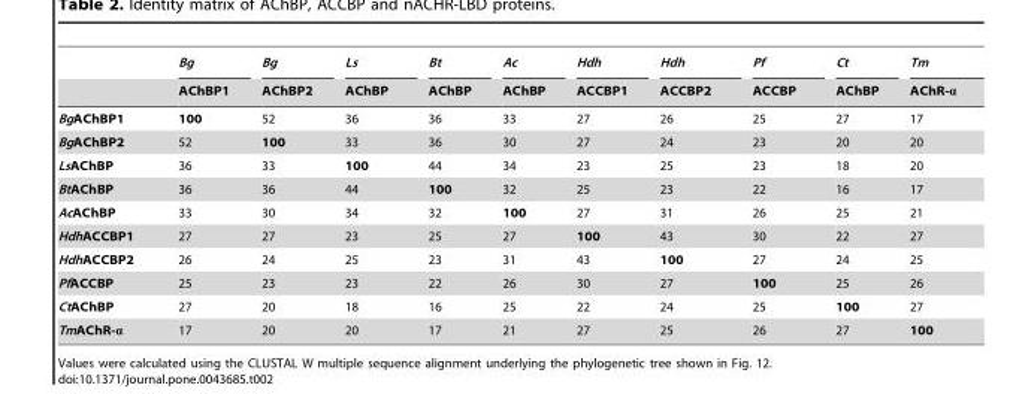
<table><thead><tr><td rowspan="2"></td><td rowspan="2">Bg AChBP1</td><td rowspan="2">Bg AChBP2</td><td rowspan="2">Ls AChBP</td><td rowspan="2">Bt AChBP</td><td rowspan="2">Ac AChBP</td><td rowspan="2">Hdh ACCBP1</td><td rowspan="2">Hdh ACCBP2</td><td rowspan="2">Pf ACCBP</td><td rowspan="2">Ct AChBP</td><td rowspan="2">Tm AChR-α</td></tr><tr></tr></thead><tbody><tr><td>BgAChBP1</td><td>100</td><td>52</td><td>36</td><td>36</td><td>33</td><td>27</td><td>26</td><td>25</td><td>27</td><td>17</td></tr><tr><td>BgAChBP2</td><td>52</td><td>100</td><td>33</td><td>36</td><td>30</td><td>27</td><td>24</td><td>23</td><td>20</td><td>20</td></tr><tr><td>LsAChBP</td><td>36</td><td>33</td><td>100</td><td>44</td><td>34</td><td>23</td><td>25</td><td>23</td><td>18</td><td>20</td></tr><tr><td>BtAChBP</td><td>36</td><td>36</td><td>44</td><td>100</td><td>32</td><td>25</td><td>23</td><td>22</td><td>16</td><td>17</td></tr><tr><td>AcAChBP</td><td>33</td><td>30</td><td>34</td><td>32</td><td>100</td><td>27</td><td>31</td><td>26</td><td>25</td><td>21</td></tr><tr><td>HdhACCBP1</td><td>27</td><td>27</td><td>23</td><td>25</td><td>27</td><td>100</td><td>43</td><td>30</td><td>22</td><td>27</td></tr><tr><td>HdhACCBP2</td><td>26</td><td>24</td><td>25</td><td>23</td><td>31</td><td>43</td><td>100</td><td>27</td><td>24</td><td>25</td></tr><tr><td>PfACCBP</td><td>25</td><td>23</td><td>23</td><td>22</td><td>26</td><td>30</td><td>27</td><td>100</td><td>25</td><td>26</td></tr><tr><td>CtAChBP</td><td>27</td><td>20</td><td>18</td><td>16</td><td>25</td><td>22</td><td>24</td><td>25</td><td>100</td><td>27</td></tr><tr><td>TmAChR-α</td><td>17</td><td>20</td><td>20</td><td>17</td><td>21</td><td>27</td><td>25</td><td>26</td><td>27</td><td>100</td></tr></tbody></table>